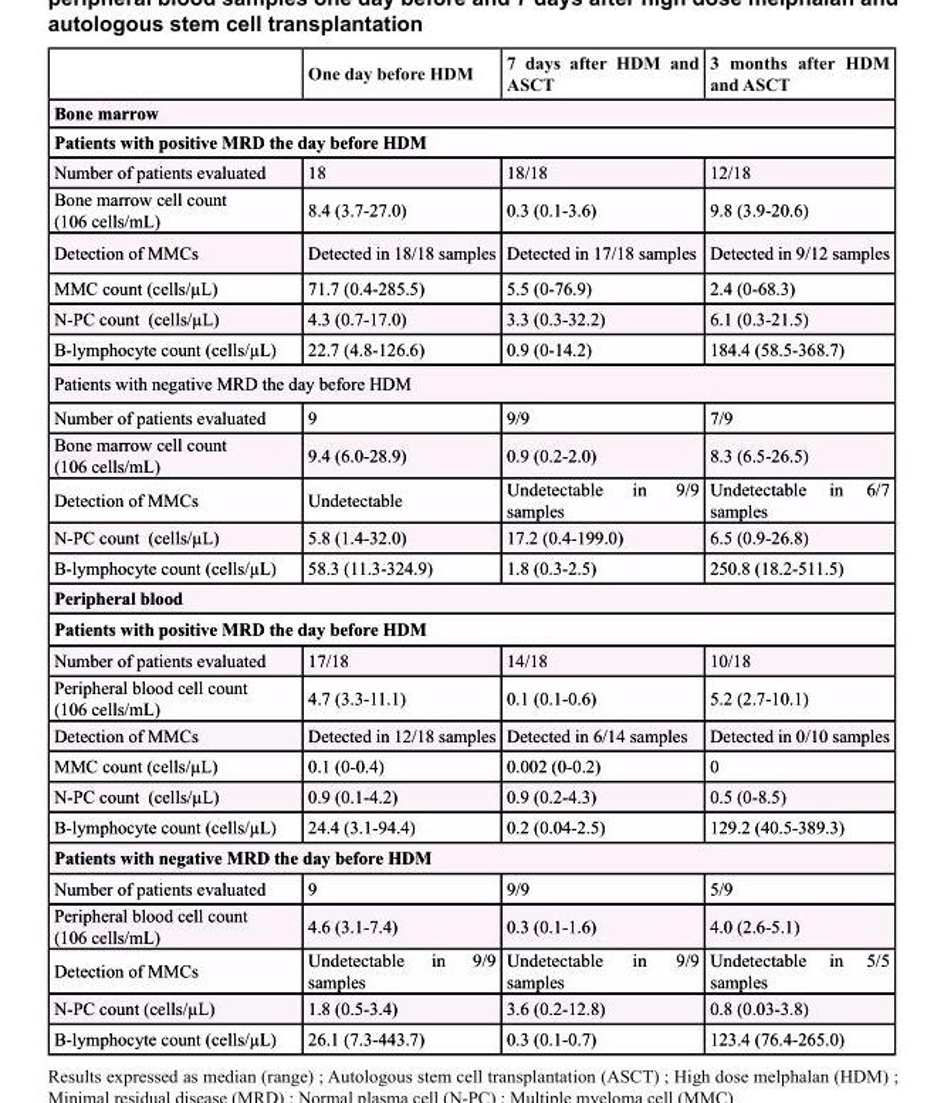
<table><thead><tr><td></td><td>one day before HdM</td><td>7 days after HdM and Asct</td><td>3 months after HdM and Asct</td></tr></thead><tbody><tr><td colspan="4">bone marrow</td></tr><tr><td colspan="4">Patients with positive Mrd the day before HdM</td></tr><tr><td>Number of patients evaluated</td><td>18</td><td>18/18</td><td>12/18</td></tr><tr><td>Bone marrow cell count (106 cells/mL)</td><td>8.4 (3.7-27.0)</td><td>0.3 (0.1-3.6)</td><td>9.8 (3.9-20.6)</td></tr><tr><td>Detection of MMCs</td><td>Detected in 18/18 samples</td><td>Detected in 17/18 samples</td><td>Detected in 9/12 samples</td></tr><tr><td>MMC count (cells/µL)</td><td>71.7 (0.4-285.5)</td><td>5.5 (0-76.9)</td><td>2.4 (0-68.3)</td></tr><tr><td>N-PC count (cells/µL)</td><td>4.3 (0.7-17.0)</td><td>3.3 (0.3-32.2)</td><td>6.1 (0.3-21.5)</td></tr><tr><td>B-lymphocyte count (cells/µL)</td><td>22.7 (4.8-126.6)</td><td>0.9 (0-14.2)</td><td>184.4 (58.5-368.7)</td></tr><tr><td colspan="4">Patients with negative MRD the day before HDM</td></tr><tr><td>Number of patients evaluated</td><td>9</td><td>9/9</td><td>7/9</td></tr><tr><td>Bone marrow cell count (106 cells/mL)</td><td>9.4 (6.0-28.9)</td><td>0.9 (0.2-2.0)</td><td>8.3 (6.5-26.5)</td></tr><tr><td>Detection of MMCs</td><td>Undetectable</td><td>Undetectable in 9/9 samples</td><td>Undetectable in 6/7 samples</td></tr><tr><td>N-PC count (cells/µL)</td><td>5.8 (1.4-32.0)</td><td>17.2 (0.4-199.0)</td><td>6.5 (0.9-26.8)</td></tr><tr><td>B-lymphocyte count (cells/µL)</td><td>58.3 (11.3-324.9)</td><td>1.8 (0.3-2.5)</td><td>250.8 (18.2-511.5)</td></tr><tr><td colspan="4">Peripheral blood</td></tr><tr><td colspan="4">Patients with positive Mrd the day before HdM</td></tr><tr><td>Number of patients evaluated</td><td>17/18</td><td>14/18</td><td>10/18</td></tr><tr><td>Peripheral blood cell count (106 cells/mL)</td><td>4.7 (3.3-11.1)</td><td>0.1 (0.1-0.6)</td><td>5.2 (2.7-10.1)</td></tr><tr><td>Detection of MMCs</td><td>Detected in 12/18 samples</td><td>Detected in 6/14 samples</td><td>Detected in 0/10 samples</td></tr><tr><td>MMC count (cells/µL)</td><td>0.1 (0-0.4)</td><td>0.002 (0-0.2)</td><td>0</td></tr><tr><td>N-PC count (cells/µL)</td><td>0.9 (0.1-4.2)</td><td>0.9 (0.2-4.3)</td><td>0.5 (0-8.5)</td></tr><tr><td>B-lymphocyte count (cells/µL)</td><td>24.4 (3.1-94.4)</td><td>0.2 (0.04-2.5)</td><td>129.2 (40.5-389.3)</td></tr><tr><td colspan="4">Patients with negative Mrd the day before HdM</td></tr><tr><td>Number of patients evaluated</td><td>9</td><td>9/9</td><td>5/9</td></tr><tr><td>Peripheral blood cell count (106 cells/mL)</td><td>4.6 (3.1-7.4)</td><td>0.3 (0.1-1.6)</td><td>4.0 (2.6-5.1)</td></tr><tr><td>Detection of MMCs</td><td>Undetectable in 9/9 samples</td><td>Undetectable in 9/9 samples</td><td>Undetectable in 5/5 samples</td></tr><tr><td>N-PC count (cells/µL)</td><td>1.8 (0.5-3.4)</td><td>3.6 (0.2-12.8)</td><td>0.8 (0.03-3.8)</td></tr><tr><td>B-lymphocyte count (cells/µL)</td><td>26.1 (7.3-443.7)</td><td>0.3 (0.1-0.7)</td><td>123.4 (76.4-265.0)</td></tr></tbody></table>